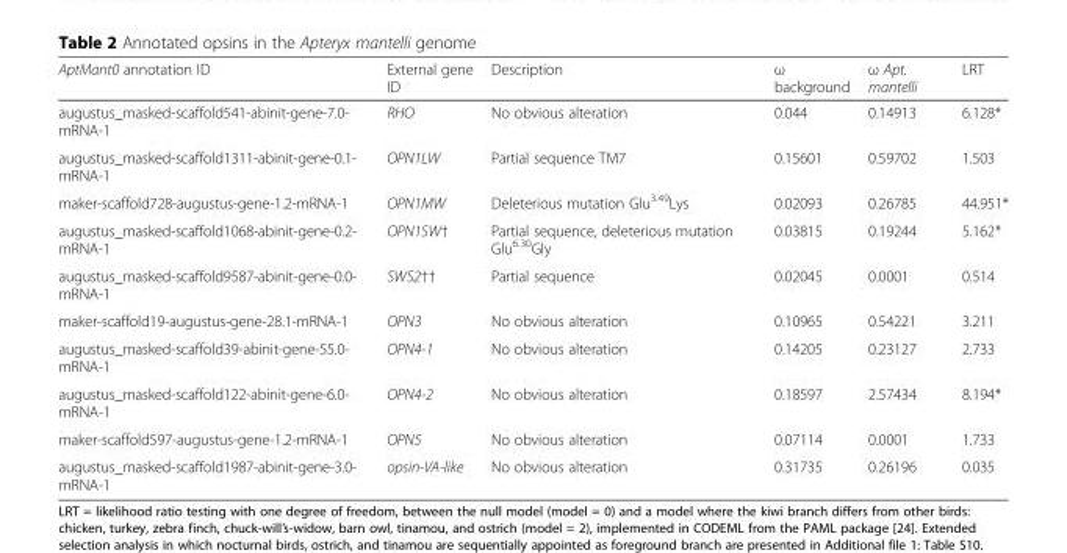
<table><thead><tr><td>AptMant0 annotation ID</td><td>External gene ID</td><td>Description</td><td>ω background</td><td>ω Apt. mantelli</td><td>LRT</td></tr></thead><tbody><tr><td>augustus_masked-scaffold541-abinit-gene-7.0- mRNA-1</td><td>RHO</td><td>No obvious alteration</td><td>0.044</td><td>0.14913</td><td>6.128*</td></tr><tr><td>augustus_masked-scaffold1311-abinit-gene-0.1- mRNA-1</td><td>OPN1LW</td><td>Partial sequence TM7</td><td>0.15601</td><td>0.59702</td><td>1.503</td></tr><tr><td>maker-scaffold728-augustus-gene-1.2-mRNA-1</td><td>OPN1MW</td><td>Deleterious mutation Glu<sup>3.49</sup>Lys</td><td>0.02093</td><td>0.26785</td><td>44.951*</td></tr><tr><td>augustus_masked-scaffold1068-abinit-gene-0.2- mRNA-1</td><td>OPN1SW†</td><td>Partial sequence, deleterious mutation Glu<sup>6.30</sup>Gly</td><td>0.03815</td><td>0.19244</td><td>5.162*</td></tr><tr><td>augustus_masked-scaffold9587-abinit-gene-0.0- mRNA-1</td><td>SWS2††</td><td>Partial sequence</td><td>0.02045</td><td>0.0001</td><td>0.514</td></tr><tr><td>maker-scaffold19-augustus-gene-28.1-mRNA-1</td><td>OPN3</td><td>No obvious alteration</td><td>0.10965</td><td>0.54221</td><td>3.211</td></tr><tr><td>augustus_masked-scaffold39-abinit-gene-55.0- mRNA-1</td><td>OPN4-1</td><td>No obvious alteration</td><td>0.14205</td><td>0.23127</td><td>2.733</td></tr><tr><td>augustus_masked-scaffold122-abinit-gene-6.0- mRNA-1</td><td>OPN4-2</td><td>No obvious alteration</td><td>0.18597</td><td>2.57434</td><td>8.194*</td></tr><tr><td>maker-scaffold597-augustus-gene-1.2-mRNA-1</td><td>OPN5</td><td>No obvious alteration</td><td>0.07114</td><td>0.0001</td><td>1.733</td></tr><tr><td>augustus_masked-scaffold1987-abinit-gene-3.0- mRNA-1</td><td>opsin-VA-like</td><td>No obvious alteration</td><td>0.31735</td><td>0.26196</td><td>0.035</td></tr></tbody></table>